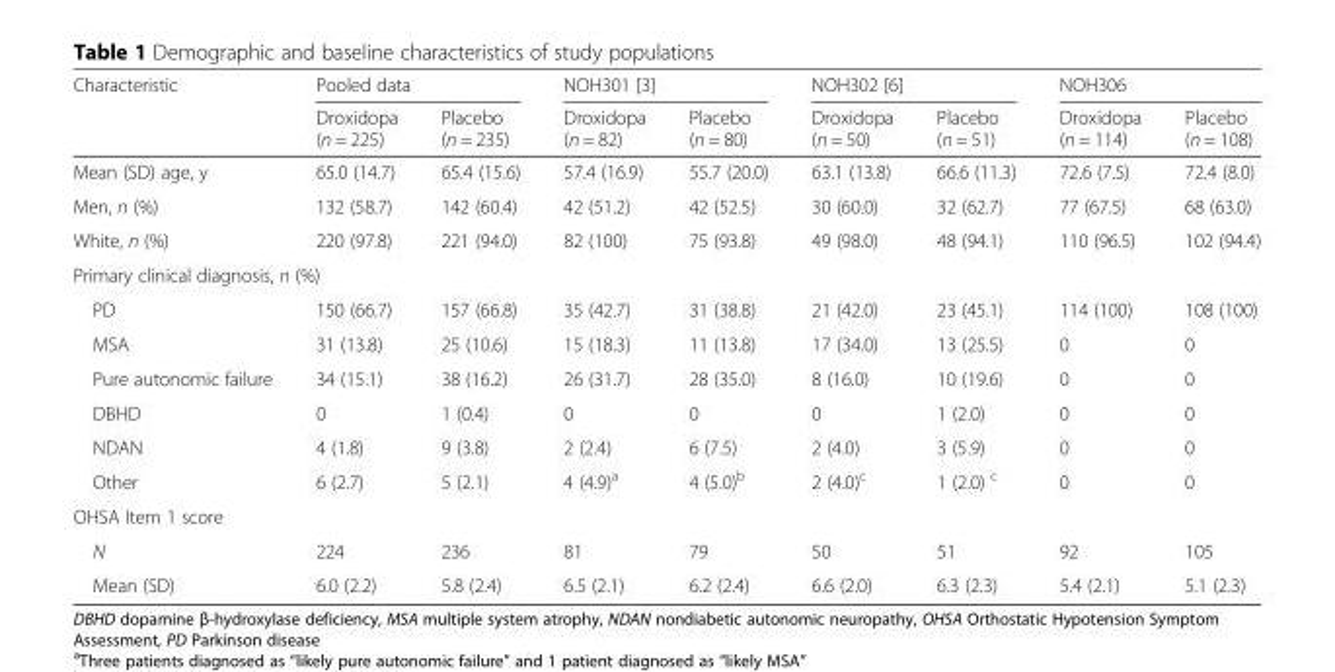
<table><thead><tr><td rowspan="2">Characteristic</td><td colspan="2">Pooled data</td><td colspan="2">NOH301 [3]</td><td colspan="2">NOH302 [6]</td><td colspan="2">NOH306</td></tr><tr><td>Droxidopa (n = 225)</td><td>Placebo (n = 235)</td><td>Droxidopa (n = 82)</td><td>Placebo (n = 80)</td><td>Droxidopa (n = 50)</td><td>Placebo (n = 51)</td><td>Droxidopa (n = 114)</td><td>Placebo (n = 108)</td></tr></thead><tbody><tr><td>Mean (SD) age, y</td><td>65.0 (14.7)</td><td>65.4 (15.6)</td><td>57.4 (16.9)</td><td>55.7 (20.0)</td><td>63.1 (13.8)</td><td>66.6 (11.3)</td><td>72.6 (7.5)</td><td>72.4 (8.0)</td></tr><tr><td>Men, n (%)</td><td>132 (58.7)</td><td>142 (60.4)</td><td>42 (51.2)</td><td>42 (52.5)</td><td>30 (60.0)</td><td>32 (62.7)</td><td>77 (67.5)</td><td>68 (63.0)</td></tr><tr><td>White, n (%)</td><td>220 (97.8)</td><td>221 (94.0)</td><td>82 (100)</td><td>75 (93.8)</td><td>49 (98.0)</td><td>48 (94.1)</td><td>110 (96.5)</td><td>102 (94.4)</td></tr><tr><td colspan="9">Primary clinical diagnosis, n (%)</td></tr><tr><td>PD</td><td>150 (66.7)</td><td>157 (66.8)</td><td>35 (42.7)</td><td>31 (38.8)</td><td>21 (42.0)</td><td>23 (45.1)</td><td>114 (100)</td><td>108 (100)</td></tr><tr><td>MSA</td><td>31 (13.8)</td><td>25 (10.6)</td><td>15 (18.3)</td><td>11 (13.8)</td><td>17 (34.0)</td><td>13 (25.5)</td><td>0</td><td>0</td></tr><tr><td>Pure autonomic failure</td><td>34 (15.1)</td><td>38 (16.2)</td><td>26 (31.7)</td><td>28 (35.0)</td><td>8 (16.0)</td><td>10 (19.6)</td><td>0</td><td>0</td></tr><tr><td>DBHD</td><td>0</td><td>1 (0.4)</td><td>0</td><td>0</td><td>0</td><td>1 (2.0)</td><td>0</td><td>0</td></tr><tr><td>NDAN</td><td>4 (1.8)</td><td>9 (3.8)</td><td>2 (2.4)</td><td>6 (7.5)</td><td>2 (4.0)</td><td>3 (5.9)</td><td>0</td><td>0</td></tr><tr><td>Other</td><td>6 (2.7)</td><td>5 (2.1)</td><td>4 (4.9)<sup>a</sup></td><td>4 (5.0)<sup>b</sup></td><td>2 (4.0)<sup>c</sup></td><td>1 (2.0) <sup>c</sup></td><td>0</td><td>0</td></tr><tr><td colspan="9">OHSA Item 1 score</td></tr><tr><td>N</td><td>224</td><td>236</td><td>81</td><td>79</td><td>50</td><td>51</td><td>92</td><td>105</td></tr><tr><td>Mean (SD)</td><td>6.0 (2.2)</td><td>5.8 (2.4)</td><td>6.5 (2.1)</td><td>6.2 (2.4)</td><td>6.6 (2.0)</td><td>6.3 (2.3)</td><td>5.4 (2.1)</td><td>5.1 (2.3)</td></tr></tbody></table>